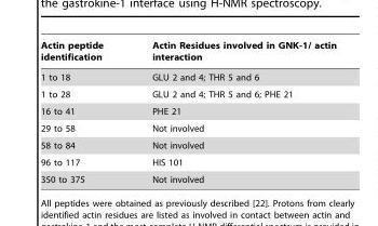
<table><thead><tr><td>Actin peptide identification</td><td>Actin Residues involved in GNK-1/ actin interaction</td></tr></thead><tbody><tr><td>1 to 18</td><td>GLU 2 and 4; THR 5 and 6</td></tr><tr><td>1 to 28</td><td>GLU 2 and 4; THR 5 and 6; PHE 21</td></tr><tr><td>16 to 41</td><td>PHE 21</td></tr><tr><td>29 to 58</td><td>Not involved</td></tr><tr><td>58 to 84</td><td>Not involved</td></tr><tr><td>96 to 117</td><td>HIS 101</td></tr><tr><td>350 to 375</td><td>Not involved</td></tr></tbody></table>